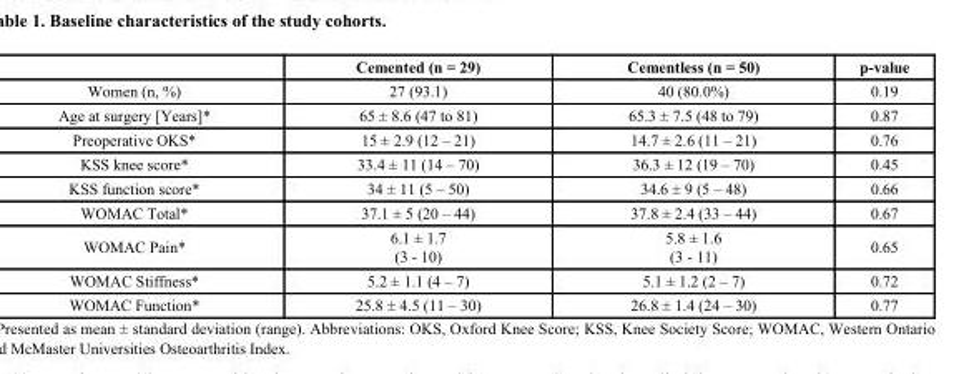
<table><thead><tr><td></td><td>Cemented (n = 29)</td><td>Cementless (n = 50)</td><td>p-value</td></tr></thead><tbody><tr><td>Women (n, %)</td><td>27 (93.1)</td><td>40 (80.0%)</td><td>0.19</td></tr><tr><td>Age at surgery [Years]*</td><td>65 ± 8.6 (47 to 81)</td><td>65.3 ± 7.5 (48 to 79)</td><td>0.87</td></tr><tr><td>Preoperative OKS*</td><td>15 ± 2.9 (12 – 21)</td><td>14.7 ± 2.6 (11 – 21)</td><td>0.76</td></tr><tr><td>KSS knee score*</td><td>33.4 ± 11 (14 – 70)</td><td>36.3 ± 12 (19 – 70)</td><td>0.45</td></tr><tr><td>KSS function score*</td><td>34 ± 11 (5 – 50)</td><td>34.6 ± 9 (5 – 48)</td><td>0.66</td></tr><tr><td>WOMAC Total*</td><td>37.1 ± 5 (20 – 44)</td><td>37.8 ± 2.4 (33 – 44)</td><td>0.67</td></tr><tr><td>WOMAC Pain*</td><td>6.1 ± 1.7 (3 - 10)</td><td>5.8 ± 1.6 (3 - 11)</td><td>0.65</td></tr><tr><td>WOMAC Stiffness*</td><td>5.2 ± 1.1 (4 – 7)</td><td>5.1 ± 1.2 (2 – 7)</td><td>0.72</td></tr><tr><td>WOMAC Function*</td><td>25.8 ± 4.5 (11 – 30)</td><td>26.8 ± 1.4 (24 – 30)</td><td>0.77</td></tr></tbody></table>